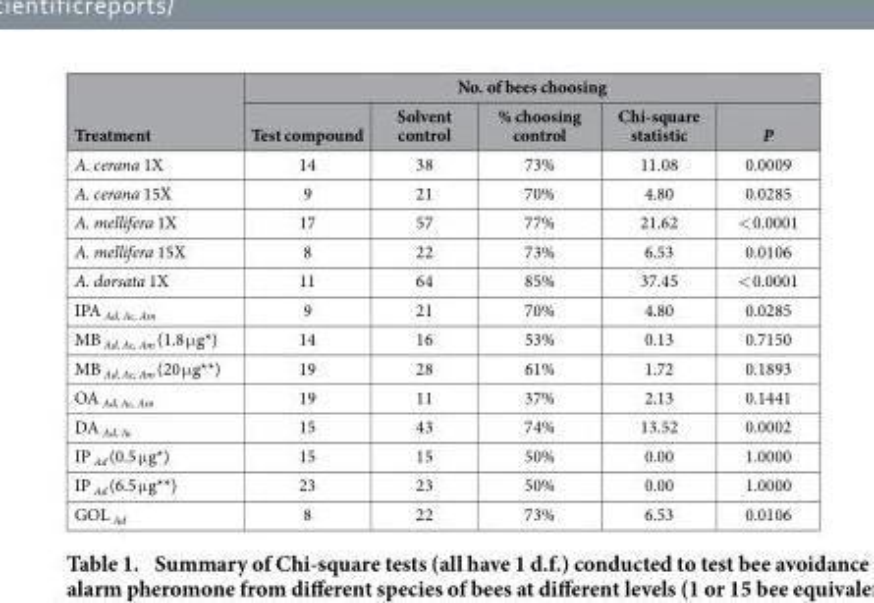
<table><thead><tr><td rowspan="2">Treatment</td><td colspan="5">No. of bees choosing</td></tr><tr><td>Test compound</td><td>Solvent control</td><td>% choosing control</td><td>Chi-square statistic</td><td>P</td></tr></thead><tbody><tr><td>A. cerana 1X</td><td>14</td><td>38</td><td>73%</td><td>11.08</td><td>0.0009</td></tr><tr><td>A. cerana 15X</td><td>9</td><td>21</td><td>70%</td><td>4.80</td><td>0.0285</td></tr><tr><td>A. mellifera 1X</td><td>17</td><td>57</td><td>77%</td><td>21.62</td><td>&lt; 0.0001</td></tr><tr><td>A. mellifera 15X</td><td>8</td><td>22</td><td>73%</td><td>6.53</td><td>0.0106</td></tr><tr><td>A. dorsata 1X</td><td>11</td><td>64</td><td>85%</td><td>37.45</td><td>&lt; 0.0001</td></tr><tr><td>IPA <sub>Ad, Ac, Am</sub></td><td>9</td><td>21</td><td>70%</td><td>4.80</td><td>0.0285</td></tr><tr><td>MB <sub>Ad, Ac, Am</sub> (1.8 μ g*)</td><td>14</td><td>16</td><td>53%</td><td>0.13</td><td>0.7150</td></tr><tr><td>MB <sub>Ad, Ac, Am</sub> (20 μ g**)</td><td>19</td><td>28</td><td>61%</td><td>1.72</td><td>0.1893</td></tr><tr><td>OA <sub>Ad, Ac, Am</sub></td><td>19</td><td>11</td><td>37%</td><td>2.13</td><td>0.1441</td></tr><tr><td>DA <sub>Ad, Ac</sub></td><td>15</td><td>43</td><td>74%</td><td>13.52</td><td>0.0002</td></tr><tr><td>IP <sub>Ad</sub> (0.5 μ g*)</td><td>15</td><td>15</td><td>50%</td><td>0.00</td><td>1.0000</td></tr><tr><td>IP <sub>Ad</sub> (6.5 μ g**)</td><td>23</td><td>23</td><td>50%</td><td>0.00</td><td>1.0000</td></tr><tr><td>GOL <sub>Ad</sub></td><td>8</td><td>22</td><td>73%</td><td>6.53</td><td>0.0106</td></tr></tbody></table>